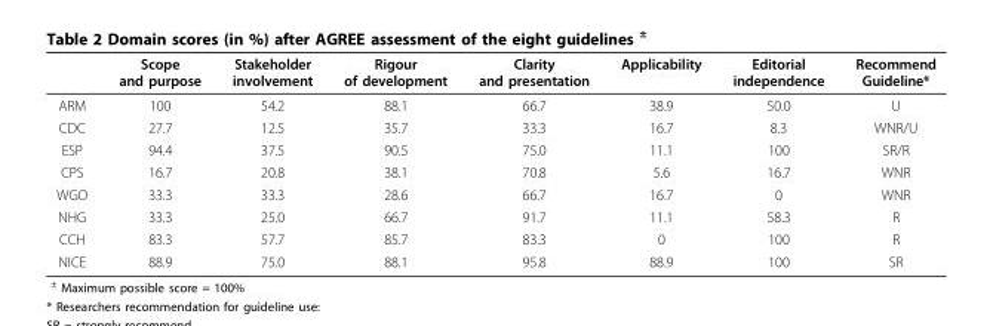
<table><thead><tr><td></td><td>Scope and purpose</td><td>Stakeholder involvement</td><td>Rigour of development</td><td>Clarity and presentation</td><td>Applicability</td><td>Editorial independence</td><td>Recommend Guideline*</td></tr></thead><tbody><tr><td>ARM</td><td>100</td><td>54.2</td><td>88.1</td><td>66.7</td><td>38.9</td><td>50.0</td><td>U</td></tr><tr><td>CDC</td><td>27.7</td><td>12.5</td><td>35.7</td><td>33.3</td><td>16.7</td><td>8.3</td><td>WNR/U</td></tr><tr><td>ESP</td><td>94.4</td><td>37.5</td><td>90.5</td><td>75.0</td><td>11.1</td><td>100</td><td>SR/R</td></tr><tr><td>CPS</td><td>16.7</td><td>20.8</td><td>38.1</td><td>70.8</td><td>5.6</td><td>16.7</td><td>WNR</td></tr><tr><td>WGO</td><td>33.3</td><td>33.3</td><td>28.6</td><td>66.7</td><td>16.7</td><td>0</td><td>WNR</td></tr><tr><td>NHG</td><td>33.3</td><td>25.0</td><td>66.7</td><td>91.7</td><td>11.1</td><td>58.3</td><td>R</td></tr><tr><td>CCH</td><td>83.3</td><td>57.7</td><td>85.7</td><td>83.3</td><td>0</td><td>100</td><td>R</td></tr><tr><td>NICE</td><td>88.9</td><td>75.0</td><td>88.1</td><td>95.8</td><td>88.9</td><td>100</td><td>SR</td></tr></tbody></table>